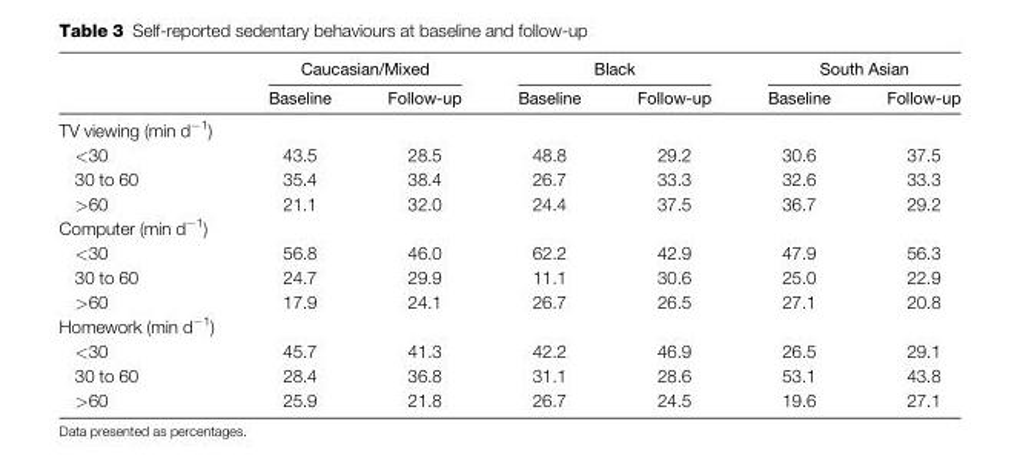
<table><thead><tr><td rowspan="2"></td><td colspan="2">Caucasian/Mixed</td><td colspan="2">Black</td><td colspan="2">South Asian</td></tr><tr><td>Baseline</td><td>Follow-up</td><td>Baseline</td><td>Follow-up</td><td>Baseline</td><td>Follow-up</td></tr></thead><tbody><tr><td colspan="7">TV viewing (min d<sup>−1</sup>)</td></tr><tr><td>&lt;30</td><td>43.5</td><td>28.5</td><td>48.8</td><td>29.2</td><td>30.6</td><td>37.5</td></tr><tr><td>30 to 60</td><td>35.4</td><td>38.4</td><td>26.7</td><td>33.3</td><td>32.6</td><td>33.3</td></tr><tr><td>&gt;60</td><td>21.1</td><td>32.0</td><td>24.4</td><td>37.5</td><td>36.7</td><td>29.2</td></tr><tr><td colspan="7">Computer (min d<sup>−1</sup>)</td></tr><tr><td>&lt;30</td><td>56.8</td><td>46.0</td><td>62.2</td><td>42.9</td><td>47.9</td><td>56.3</td></tr><tr><td>30 to 60</td><td>24.7</td><td>29.9</td><td>11.1</td><td>30.6</td><td>25.0</td><td>22.9</td></tr><tr><td>&gt;60</td><td>17.9</td><td>24.1</td><td>26.7</td><td>26.5</td><td>27.1</td><td>20.8</td></tr><tr><td colspan="7">Homework (min d<sup>−1</sup>)</td></tr><tr><td>&lt;30</td><td>45.7</td><td>41.3</td><td>42.2</td><td>46.9</td><td>26.5</td><td>29.1</td></tr><tr><td>30 to 60</td><td>28.4</td><td>36.8</td><td>31.1</td><td>28.6</td><td>53.1</td><td>43.8</td></tr><tr><td>&gt;60</td><td>25.9</td><td>21.8</td><td>26.7</td><td>24.5</td><td>19.6</td><td>27.1</td></tr></tbody></table>